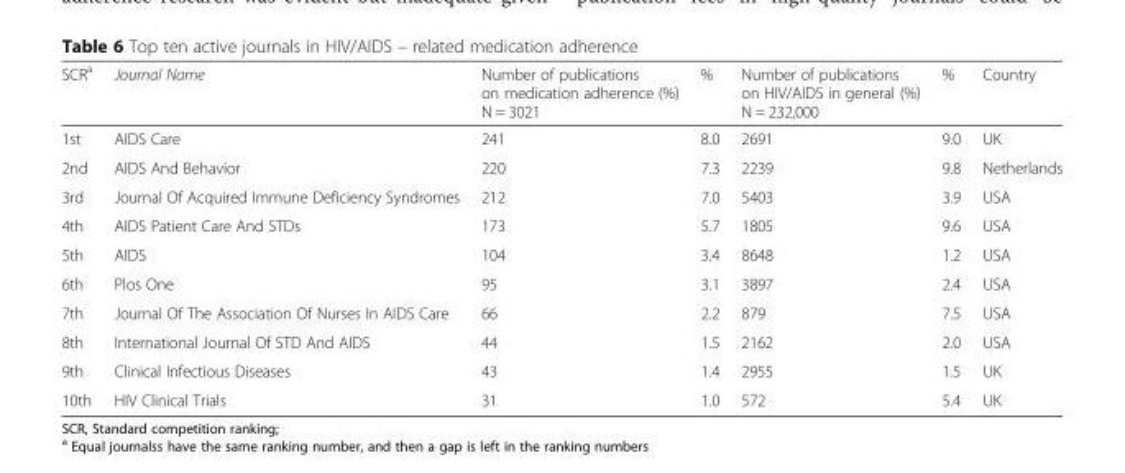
<table><thead><tr><td>SCR<sup>a</sup></td><td>Journal Name</td><td>Number of publications on medication adherence (%) N = 3021</td><td>%</td><td>Number of publications on HIV/AIDS in general (%) N = 232,000</td><td>%</td><td>Country</td></tr></thead><tbody><tr><td>1st</td><td>AIDS Care</td><td>241</td><td>8.0</td><td>2691</td><td>9.0</td><td>UK</td></tr><tr><td>2nd</td><td>AIDS And Behavior</td><td>220</td><td>7.3</td><td>2239</td><td>9.8</td><td>Netherlands</td></tr><tr><td>3rd</td><td>Journal Of Acquired Immune Deficiency Syndromes</td><td>212</td><td>7.0</td><td>5403</td><td>3.9</td><td>USA</td></tr><tr><td>4th</td><td>AIDS Patient Care And STDs</td><td>173</td><td>5.7</td><td>1805</td><td>9.6</td><td>USA</td></tr><tr><td>5th</td><td>AIDS</td><td>104</td><td>3.4</td><td>8648</td><td>1.2</td><td>USA</td></tr><tr><td>6th</td><td>Plos One</td><td>95</td><td>3.1</td><td>3897</td><td>2.4</td><td>USA</td></tr><tr><td>7th</td><td>Journal Of The Association Of Nurses In AIDS Care</td><td>66</td><td>2.2</td><td>879</td><td>7.5</td><td>USA</td></tr><tr><td>8th</td><td>International Journal Of STD And AIDS</td><td>44</td><td>1.5</td><td>2162</td><td>2.0</td><td>USA</td></tr><tr><td>9th</td><td>Clinical Infectious Diseases</td><td>43</td><td>1.4</td><td>2955</td><td>1.5</td><td>UK</td></tr><tr><td>10th</td><td>HIV Clinical Trials</td><td>31</td><td>1.0</td><td>572</td><td>5.4</td><td>UK</td></tr></tbody></table>